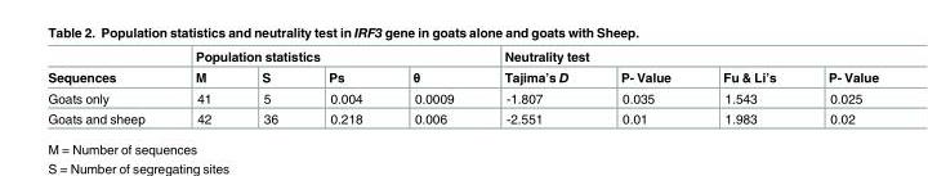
<table><thead><tr><td rowspan="2">Sequences</td><td colspan="4">Population statistics</td><td colspan="4">Neutrality test</td></tr><tr><td>M</td><td>S</td><td>Ps</td><td>θ</td><td>Tajima’s D</td><td>P- Value</td><td>Fu &amp; Li’s</td><td>P- Value</td></tr></thead><tbody><tr><td>Goats only</td><td>41</td><td>5</td><td>0.004</td><td>0.0009</td><td>-1.807</td><td>0.035</td><td>1.543</td><td>0.025</td></tr><tr><td>Goats and sheep</td><td>42</td><td>36</td><td>0.218</td><td>0.006</td><td>-2.551</td><td>0.01</td><td>1.983</td><td>0.02</td></tr></tbody></table>